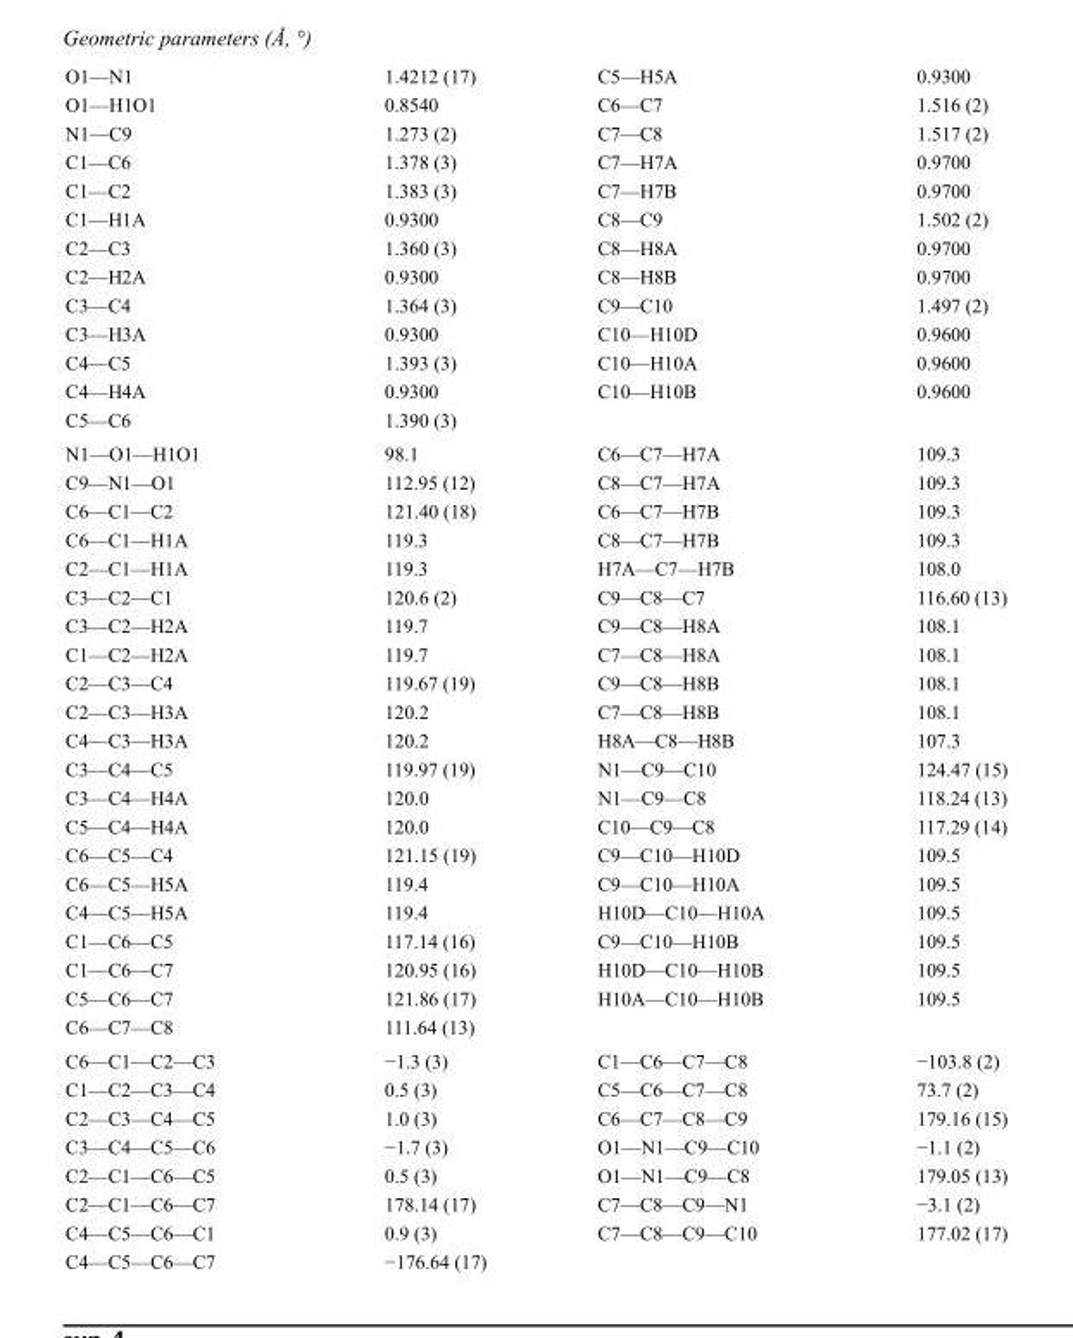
<table><tbody><tr><td>O1—N1</td><td>1.4212 (17)</td><td>C5—H5A</td><td>0.9300</td></tr><tr><td>O1—H1O1</td><td>0.8540</td><td>C6—C7</td><td>1.516 (2)</td></tr><tr><td>N1—C9</td><td>1.273 (2)</td><td>C7—C8</td><td>1.517 (2)</td></tr><tr><td>C1—C6</td><td>1.378 (3)</td><td>C7—H7A</td><td>0.9700</td></tr><tr><td>C1—C2</td><td>1.383 (3)</td><td>C7—H7B</td><td>0.9700</td></tr><tr><td>C1—H1A</td><td>0.9300</td><td>C8—C9</td><td>1.502 (2)</td></tr><tr><td>C2—C3</td><td>1.360 (3)</td><td>C8—H8A</td><td>0.9700</td></tr><tr><td>C2—H2A</td><td>0.9300</td><td>C8—H8B</td><td>0.9700</td></tr><tr><td>C3—C4</td><td>1.364 (3)</td><td>C9—C10</td><td>1.497 (2)</td></tr><tr><td>C3—H3A</td><td>0.9300</td><td>C10—H10D</td><td>0.9600</td></tr><tr><td>C4—C5</td><td>1.393 (3)</td><td>C10—H10A</td><td>0.9600</td></tr><tr><td>C4—H4A</td><td>0.9300</td><td>C10—H10B</td><td>0.9600</td></tr><tr><td>C5—C6</td><td>1.390 (3)</td><td></td><td></td></tr><tr><td>N1—O1—H1O1</td><td>98.1</td><td>C6—C7—H7A</td><td>109.3</td></tr><tr><td>C9—N1—O1</td><td>112.95 (12)</td><td>C8—C7—H7A</td><td>109.3</td></tr><tr><td>C6—C1—C2</td><td>121.40 (18)</td><td>C6—C7—H7B</td><td>109.3</td></tr><tr><td>C6—C1—H1A</td><td>119.3</td><td>C8—C7—H7B</td><td>109.3</td></tr><tr><td>C2—C1—H1A</td><td>119.3</td><td>H7A—C7—H7B</td><td>108.0</td></tr><tr><td>C3—C2—C1</td><td>120.6 (2)</td><td>C9—C8—C7</td><td>116.60 (13)</td></tr><tr><td>C3—C2—H2A</td><td>119.7</td><td>C9—C8—H8A</td><td>108.1</td></tr><tr><td>C1—C2—H2A</td><td>119.7</td><td>C7—C8—H8A</td><td>108.1</td></tr><tr><td>C2—C3—C4</td><td>119.67 (19)</td><td>C9—C8—H8B</td><td>108.1</td></tr><tr><td>C2—C3—H3A</td><td>120.2</td><td>C7—C8—H8B</td><td>108.1</td></tr><tr><td>C4—C3—H3A</td><td>120.2</td><td>H8A—C8—H8B</td><td>107.3</td></tr><tr><td>C3—C4—C5</td><td>119.97 (19)</td><td>N1—C9—C10</td><td>124.47 (15)</td></tr><tr><td>C3—C4—H4A</td><td>120.0</td><td>N1—C9—C8</td><td>118.24 (13)</td></tr><tr><td>C5—C4—H4A</td><td>120.0</td><td>C10—C9—C8</td><td>117.29 (14)</td></tr><tr><td>C6—C5—C4</td><td>121.15 (19)</td><td>C9—C10—H10D</td><td>109.5</td></tr><tr><td>C6—C5—H5A</td><td>119.4</td><td>C9—C10—H10A</td><td>109.5</td></tr><tr><td>C4—C5—H5A</td><td>119.4</td><td>H10D—C10—H10A</td><td>109.5</td></tr><tr><td>C1—C6—C5</td><td>117.14 (16)</td><td>C9—C10—H10B</td><td>109.5</td></tr><tr><td>C1—C6—C7</td><td>120.95 (16)</td><td>H10D—C10—H10B</td><td>109.5</td></tr><tr><td>C5—C6—C7</td><td>121.86 (17)</td><td>H10A—C10—H10B</td><td>109.5</td></tr><tr><td>C6—C7—C8</td><td>111.64 (13)</td><td></td><td></td></tr><tr><td>C6—C1—C2—C3</td><td>−1.3 (3)</td><td>C1—C6—C7—C8</td><td>−103.8 (2)</td></tr><tr><td>C1—C2—C3—C4</td><td>0.5 (3)</td><td>C5—C6—C7—C8</td><td>73.7 (2)</td></tr><tr><td>C2—C3—C4—C5</td><td>1.0 (3)</td><td>C6—C7—C8—C9</td><td>179.16 (15)</td></tr><tr><td>C3—C4—C5—C6</td><td>−1.7 (3)</td><td>O1—N1—C9—C10</td><td>−1.1 (2)</td></tr><tr><td>C2—C1—C6—C5</td><td>0.5 (3)</td><td>O1—N1—C9—C8</td><td>179.05 (13)</td></tr><tr><td>C2—C1—C6—C7</td><td>178.14 (17)</td><td>C7—C8—C9—N1</td><td>−3.1 (2)</td></tr><tr><td>C4—C5—C6—C1</td><td>0.9 (3)</td><td>C7—C8—C9—C10</td><td>177.02 (17)</td></tr><tr><td>C4—C5—C6—C7</td><td>−176.64 (17)</td><td></td><td></td></tr></tbody></table>